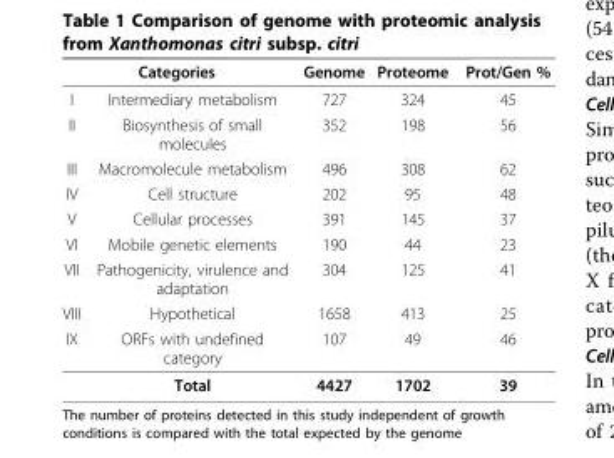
<table><thead><tr><td colspan="2">Categories</td><td rowspan="2">Genome 727</td><td rowspan="2">Proteome 324</td><td rowspan="2">Prot/Gen % 45</td></tr><tr><td>I</td><td>Intermediary metabolism</td></tr></thead><tbody><tr><td>II</td><td>Biosynthesis of small molecules</td><td>352</td><td>198</td><td>56</td></tr><tr><td>III</td><td>Macromolecule metabolism</td><td>496</td><td>308</td><td>62</td></tr><tr><td>IV</td><td>Cell structure</td><td>202</td><td>95</td><td>48</td></tr><tr><td>V</td><td>Cellular processes</td><td>391</td><td>145</td><td>37</td></tr><tr><td>VI</td><td>Mobile genetic elements</td><td>190</td><td>44</td><td>23</td></tr><tr><td>VII</td><td>Pathogenicity, virulence and adaptation</td><td>304</td><td>125</td><td>41</td></tr><tr><td>VIII</td><td>Hypothetical</td><td>1658</td><td>413</td><td>25</td></tr><tr><td rowspan="2">IX</td><td>ORFs with undefined category</td><td>107</td><td>49</td><td>46</td></tr><tr><td>Total</td><td>4427</td><td>1702</td><td>39</td></tr></tbody></table>